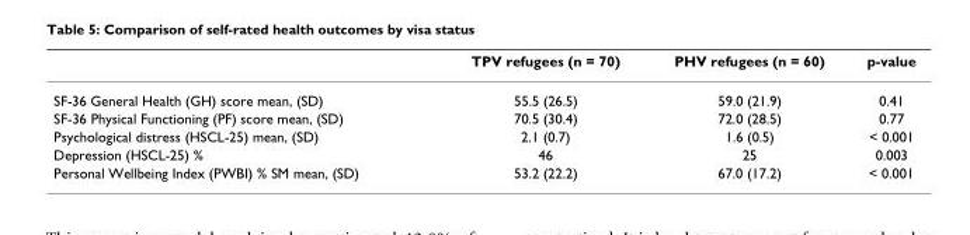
<table><thead><tr><td></td><td>TPV refugees (n = 70)</td><td>PHV refugees (n = 60)</td><td>p-value</td></tr></thead><tbody><tr><td>SF-36 General Health (GH) score mean, (SD)</td><td>55.5 (26.5)</td><td>59.0 (21.9)</td><td>0.41</td></tr><tr><td>SF-36 Physical Functioning (PF) score mean, (SD)</td><td>70.5 (30.4)</td><td>72.0 (28.5)</td><td>0.77</td></tr><tr><td>Psychological distress (HSCL-25) mean, (SD)</td><td>2.1 (0.7)</td><td>1.6 (0.5)</td><td>&lt; 0.001</td></tr><tr><td>Depression (HSCL-25) %</td><td>46</td><td>25</td><td>0.003</td></tr><tr><td>Personal Wellbeing Index (PWBI) % SM mean, (SD)</td><td>53.2 (22.2)</td><td>67.0 (17.2)</td><td>&lt; 0.001</td></tr></tbody></table>